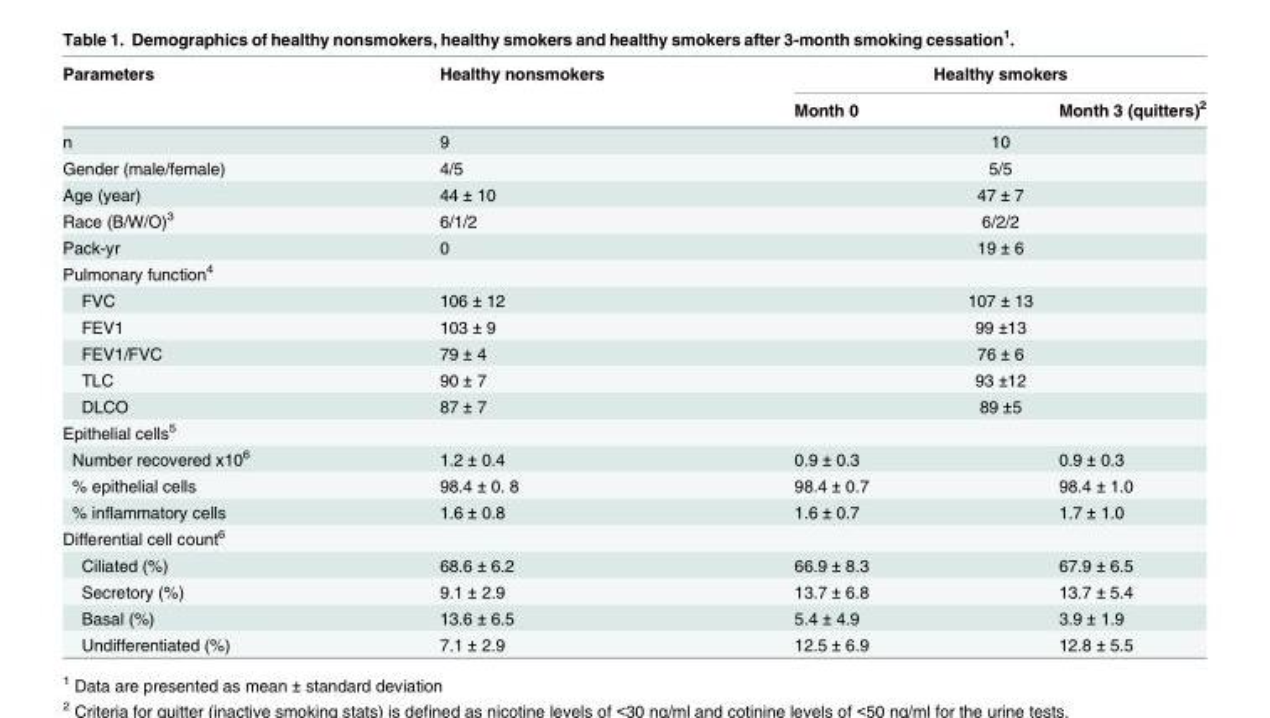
<table><thead><tr><td rowspan="2">Parameters</td><td rowspan="2">Healthy nonsmokers</td><td colspan="2">Healthy smokers</td></tr><tr><td>Month 0</td><td>Month 3 (quitters)<sup>2</sup></td></tr></thead><tbody><tr><td>n</td><td>9</td><td colspan="2">10</td></tr><tr><td>Gender (male/female)</td><td>4/5</td><td colspan="2">5/5</td></tr><tr><td>Age (year)</td><td>44 ± 10</td><td colspan="2">47 ± 7</td></tr><tr><td>Race (B/W/O)<sup>3</sup></td><td>6/1/2</td><td colspan="2">6/2/2</td></tr><tr><td>Pack-yr</td><td>0</td><td colspan="2">19 ± 6</td></tr><tr><td colspan="4">Pulmonary function<sup>4</sup></td></tr><tr><td>FVC</td><td>106 ± 12</td><td colspan="2">107 ± 13</td></tr><tr><td>FEV1</td><td>103 ± 9</td><td colspan="2">99 ±13</td></tr><tr><td>FEV1/FVC</td><td>79 ± 4</td><td colspan="2">76 ± 6</td></tr><tr><td>TLC</td><td>90 ± 7</td><td colspan="2">93 ±12</td></tr><tr><td>DLCO</td><td>87 ± 7</td><td colspan="2">89 ±5</td></tr><tr><td colspan="4">Epithelial cells<sup>5</sup></td></tr><tr><td>Number recovered x10<sup>6</sup></td><td>1.2 ± 0.4</td><td>0.9 ± 0.3</td><td>0.9 ± 0.3</td></tr><tr><td>% epithelial cells</td><td>98.4 ± 0. 8</td><td>98.4 ± 0.7</td><td>98.4 ± 1.0</td></tr><tr><td>% inflammatory cells</td><td>1.6 ± 0.8</td><td>1.6 ± 0.7</td><td>1.7 ± 1.0</td></tr><tr><td colspan="4">Differential cell count<sup>6</sup></td></tr><tr><td>Ciliated (%)</td><td>68.6 ± 6.2</td><td>66.9 ± 8.3</td><td>67.9 ± 6.5</td></tr><tr><td>Secretory (%)</td><td>9.1 ± 2.9</td><td>13.7 ± 6.8</td><td>13.7 ± 5.4</td></tr><tr><td>Basal (%)</td><td>13.6 ± 6.5</td><td>5.4 ± 4.9</td><td>3.9 ± 1.9</td></tr><tr><td>Undifferentiated (%)</td><td>7.1 ± 2.9</td><td>12.5 ± 6.9</td><td>12.8 ± 5.5</td></tr></tbody></table>